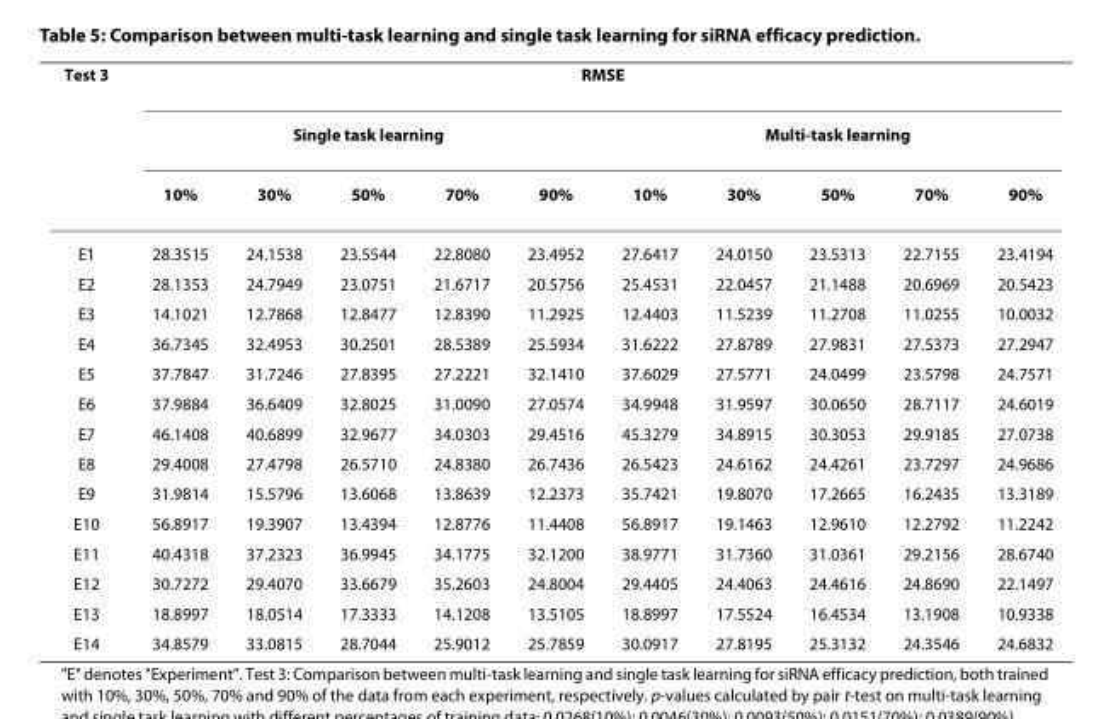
<table><thead><tr><td rowspan="3">Test 3</td><td colspan="10">RMSE</td></tr><tr><td colspan="5">Single task learning</td><td colspan="5">Multi-task learning</td></tr><tr><td>10%</td><td>30%</td><td>50%</td><td>70%</td><td>90%</td><td>10%</td><td>30%</td><td>50%</td><td>70%</td><td>90%</td></tr></thead><tbody><tr><td>E1</td><td>28.3515</td><td>24.1538</td><td>23.5544</td><td>22.8080</td><td>23.4952</td><td>27.6417</td><td>24.0150</td><td>23.5313</td><td>22.7155</td><td>23.4194</td></tr><tr><td>E2</td><td>28.1353</td><td>24.7949</td><td>23.0751</td><td>21.6717</td><td>20.5756</td><td>25.4531</td><td>22.0457</td><td>21.1488</td><td>20.6969</td><td>20.5423</td></tr><tr><td>E3</td><td>14.1021</td><td>12.7868</td><td>12.8477</td><td>12.8390</td><td>11.2925</td><td>12.4403</td><td>11.5239</td><td>11.2708</td><td>11.0255</td><td>10.0032</td></tr><tr><td>E4</td><td>36.7345</td><td>32.4953</td><td>30.2501</td><td>28.5389</td><td>25.5934</td><td>31.6222</td><td>27.8789</td><td>27.9831</td><td>27.5373</td><td>27.2947</td></tr><tr><td>E5</td><td>37.7847</td><td>31.7246</td><td>27.8395</td><td>27.2221</td><td>32.1410</td><td>37.6029</td><td>27.5771</td><td>24.0499</td><td>23.5798</td><td>24.7571</td></tr><tr><td>E6</td><td>37.9884</td><td>36.6409</td><td>32.8025</td><td>31.0090</td><td>27.0574</td><td>34.9948</td><td>31.9597</td><td>30.0650</td><td>28.7117</td><td>24.6019</td></tr><tr><td>E7</td><td>46.1408</td><td>40.6899</td><td>32.9677</td><td>34.0303</td><td>29.4516</td><td>45.3279</td><td>34.8915</td><td>30.3053</td><td>29.9185</td><td>27.0738</td></tr><tr><td>E8</td><td>29.4008</td><td>27.4798</td><td>26.5710</td><td>24.8380</td><td>26.7436</td><td>26.5423</td><td>24.6162</td><td>24.4261</td><td>23.7297</td><td>24.9686</td></tr><tr><td>E9</td><td>31.9814</td><td>15.5796</td><td>13.6068</td><td>13.8639</td><td>12.2373</td><td>35.7421</td><td>19.8070</td><td>17.2665</td><td>16.2435</td><td>13.3189</td></tr><tr><td>E10</td><td>56.8917</td><td>19.3907</td><td>13.4394</td><td>12.8776</td><td>11.4408</td><td>56.8917</td><td>19.1463</td><td>12.9610</td><td>12.2792</td><td>11.2242</td></tr><tr><td>E11</td><td>40.4318</td><td>37.2323</td><td>36.9945</td><td>34.1775</td><td>32.1200</td><td>38.9771</td><td>31.7360</td><td>31.0361</td><td>29.2156</td><td>28.6740</td></tr><tr><td>E12</td><td>30.7272</td><td>29.4070</td><td>33.6679</td><td>35.2603</td><td>24.8004</td><td>29.4405</td><td>24.4063</td><td>24.4616</td><td>24.8690</td><td>22.1497</td></tr><tr><td>E13</td><td>18.8997</td><td>18.0514</td><td>17.3333</td><td>14.1208</td><td>13.5105</td><td>18.8997</td><td>17.5524</td><td>16.4534</td><td>13.1908</td><td>10.9338</td></tr><tr><td>E14</td><td>34.8579</td><td>33.0815</td><td>28.7044</td><td>25.9012</td><td>25.7859</td><td>30.0917</td><td>27.8195</td><td>25.3132</td><td>24.3546</td><td>24.6832</td></tr></tbody></table>